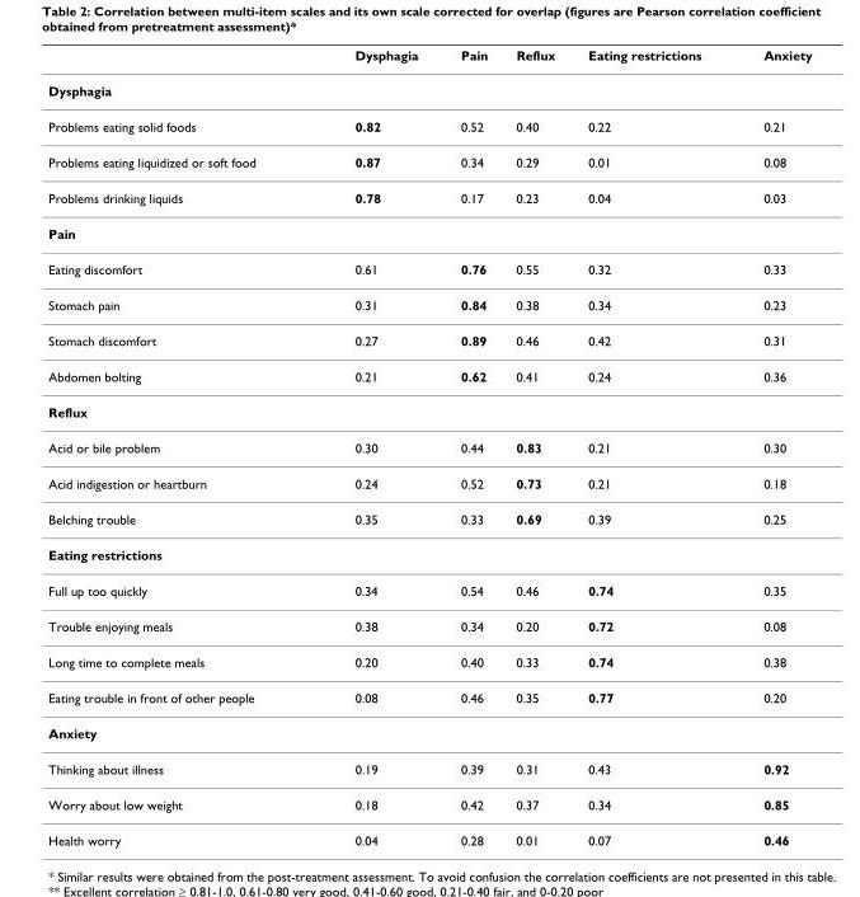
<table><thead><tr><td></td><td>Dysphagia</td><td>Pain</td><td>Reflux</td><td>Eating restrictions</td><td>Anxiety</td></tr></thead><tbody><tr><td colspan="6">Dysphagia</td></tr><tr><td>Problems eating solid foods</td><td>0.82</td><td>0.52</td><td>0.40</td><td>0.22</td><td>0.21</td></tr><tr><td>Problems eating liquidized or soft food</td><td>0.87</td><td>0.34</td><td>0.29</td><td>0.01</td><td>0.08</td></tr><tr><td>Problems drinking liquids</td><td>0.78</td><td>0.17</td><td>0.23</td><td>0.04</td><td>0.03</td></tr><tr><td colspan="6">Pain</td></tr><tr><td>Eating discomfort</td><td>0.61</td><td>0.76</td><td>0.55</td><td>0.32</td><td>0.33</td></tr><tr><td>Stomach pain</td><td>0.31</td><td>0.84</td><td>0.38</td><td>0.34</td><td>0.23</td></tr><tr><td>Stomach discomfort</td><td>0.27</td><td>0.89</td><td>0.46</td><td>0.42</td><td>0.31</td></tr><tr><td>Abdomen bolting</td><td>0.21</td><td>0.62</td><td>0.41</td><td>0.24</td><td>0.36</td></tr><tr><td colspan="6">Reflux</td></tr><tr><td>Acid or bile problem</td><td>0.30</td><td>0.44</td><td>0.83</td><td>0.21</td><td>0.30</td></tr><tr><td>Acid indigestion or heartburn</td><td>0.24</td><td>0.52</td><td>0.73</td><td>0.21</td><td>0.18</td></tr><tr><td>Belching trouble</td><td>0.35</td><td>0.33</td><td>0.69</td><td>0.39</td><td>0.25</td></tr><tr><td colspan="6">Eating restrictions</td></tr><tr><td>Full up too quickly</td><td>0.34</td><td>0.54</td><td>0.46</td><td>0.74</td><td>0.35</td></tr><tr><td>Trouble enjoying meals</td><td>0.38</td><td>0.34</td><td>0.20</td><td>0.72</td><td>0.08</td></tr><tr><td>Long time to complete meals</td><td>0.20</td><td>0.40</td><td>0.33</td><td>0.74</td><td>0.38</td></tr><tr><td>Eating trouble in front of other people</td><td>0.08</td><td>0.46</td><td>0.35</td><td>0.77</td><td>0.20</td></tr><tr><td colspan="6">Anxiety</td></tr><tr><td>Thinking about illness</td><td>0.19</td><td>0.39</td><td>0.31</td><td>0.43</td><td>0.92</td></tr><tr><td>Worry about low weight</td><td>0.18</td><td>0.42</td><td>0.37</td><td>0.34</td><td>0.85</td></tr><tr><td>Health worry</td><td>0.04</td><td>0.28</td><td>0.01</td><td>0.07</td><td>0.46</td></tr></tbody></table>